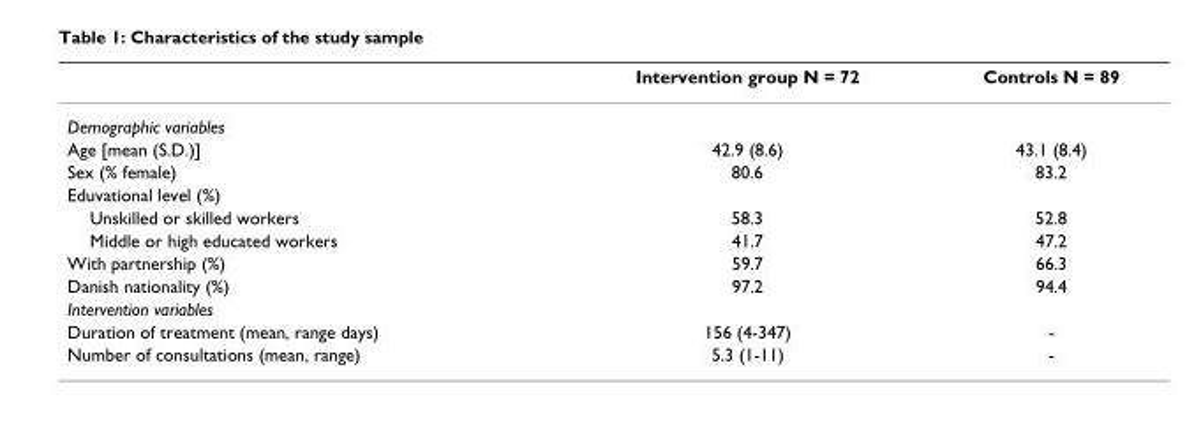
<table><thead><tr><td></td><td>Intervention group N = 72</td><td>Controls N = 89</td></tr></thead><tbody><tr><td colspan="3">Demographic variables</td></tr><tr><td>Age [mean (S.D.)]</td><td>42.9 (8.6)</td><td>43.1 (8.4)</td></tr><tr><td>Sex (% female)</td><td>80.6</td><td>83.2</td></tr><tr><td colspan="3">Eduvational level (%)</td></tr><tr><td>Unskilled or skilled workers</td><td>58.3</td><td>52.8</td></tr><tr><td>Middle or high educated workers</td><td>41.7</td><td>47.2</td></tr><tr><td>With partnership (%)</td><td>59.7</td><td>66.3</td></tr><tr><td>Danish nationality (%)</td><td>97.2</td><td>94.4</td></tr><tr><td colspan="3">Intervention variables</td></tr><tr><td>Duration of treatment (mean, range days)</td><td>156 (4-347)</td><td>-</td></tr><tr><td>Number of consultations (mean, range)</td><td>5.3 (1-11)</td><td>-</td></tr></tbody></table>